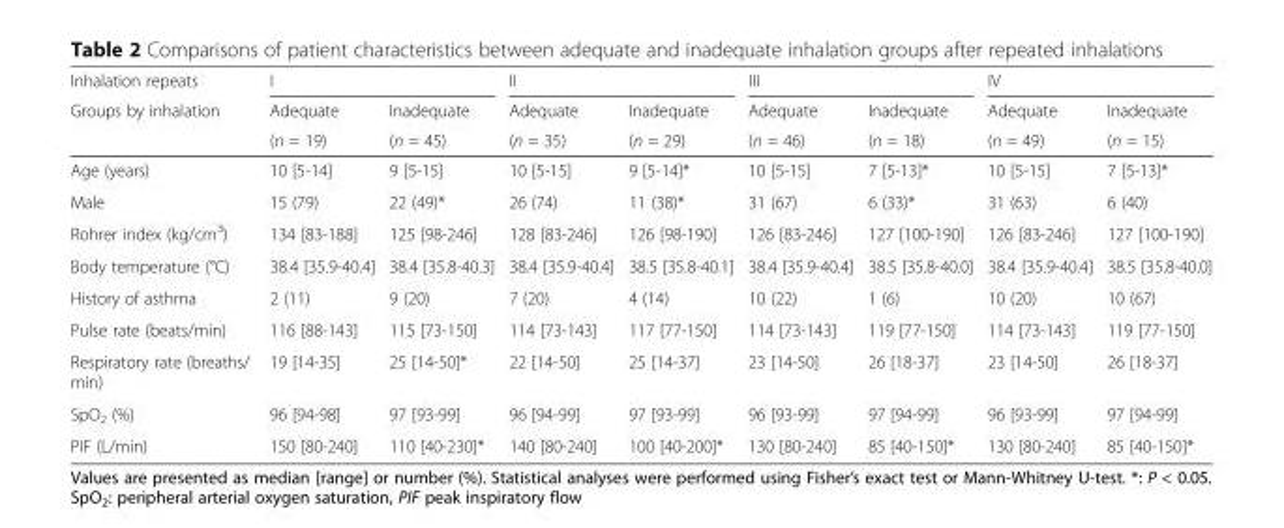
<table><thead><tr><td rowspan="3">Inhalation repeats Groups by inhalation</td><td colspan="2">I</td><td colspan="2">II</td><td colspan="2">III</td><td colspan="2">IV</td></tr><tr><td rowspan="2">Adequate (n = 19)</td><td rowspan="2">Inadequate (n = 45)</td><td rowspan="2">Adequate (n = 35)</td><td rowspan="2">Inadequate (n = 29)</td><td rowspan="2">Adequate (n = 46)</td><td rowspan="2">Inadequate (n = 18)</td><td rowspan="2">Adequate (n = 49)</td><td rowspan="2">Inadequate (n = 15)</td></tr><tr></tr></thead><tbody><tr><td>Age (years)</td><td>10 [5-14]</td><td>9 [5-15]</td><td>10 [5-15]</td><td>9 [5-14]*</td><td>10 [5-15]</td><td>7 [5-13]*</td><td>10 [5-15]</td><td>7 [5-13]*</td></tr><tr><td>Male</td><td>15 (79)</td><td>22 (49)*</td><td>26 (74)</td><td>11 (38)*</td><td>31 (67)</td><td>6 (33)*</td><td>31 (63)</td><td>6 (40)</td></tr><tr><td>Rohrer index (kg/cm<sup>3</sup>)</td><td>134 [83-188]</td><td>125 [98-246]</td><td>128 [83-246]</td><td>126 [98-190]</td><td>126 [83-246]</td><td>127 [100-190]</td><td>126 [83-246]</td><td>127 [100-190]</td></tr><tr><td>Body temperature (°C)</td><td>38.4 [35.9-40.4]</td><td>38.4 [35.8-40.3]</td><td>38.4 [35.9-40.4]</td><td>38.5 [35.8-40.1]</td><td>38.4 [35.9-40.4]</td><td>38.5 [35.8-40.0]</td><td>38.4 [35.9-40.4]</td><td>38.5 [35.8-40.0]</td></tr><tr><td>History of asthma</td><td>2 (11)</td><td>9 (20)</td><td>7 (20)</td><td>4 (14)</td><td>10 (22)</td><td>1 (6)</td><td>10 (20)</td><td>10 (67)</td></tr><tr><td>Pulse rate (beats/min)</td><td>116 [88-143]</td><td>115 [73-150]</td><td>114 [73-143]</td><td>117 [77-150]</td><td>114 [73-143]</td><td>119 [77-150]</td><td>114 [73-143]</td><td>119 [77-150]</td></tr><tr><td>Respiratory rate (breaths/ min)</td><td>19 [14-35]</td><td>25 [14-50]*</td><td>22 [14-50]</td><td>25 [14-37]</td><td>23 [14-50]</td><td>26 [18-37]</td><td>23 [14-50]</td><td>26 [18-37]</td></tr><tr><td>SpO<sub>2</sub> (%)</td><td>96 [94-98]</td><td>97 [93-99]</td><td>96 [94-99]</td><td>97 [93-99]</td><td>96 [93-99]</td><td>97 [94-99]</td><td>96 [93-99]</td><td>97 [94-99]</td></tr><tr><td>PIF (L/min)</td><td>150 [80-240]</td><td>110 [40-230]*</td><td>140 [80-240]</td><td>100 [40-200]*</td><td>130 [80-240]</td><td>85 [40-150]*</td><td>130 [80-240]</td><td>85 [40-150]*</td></tr></tbody></table>